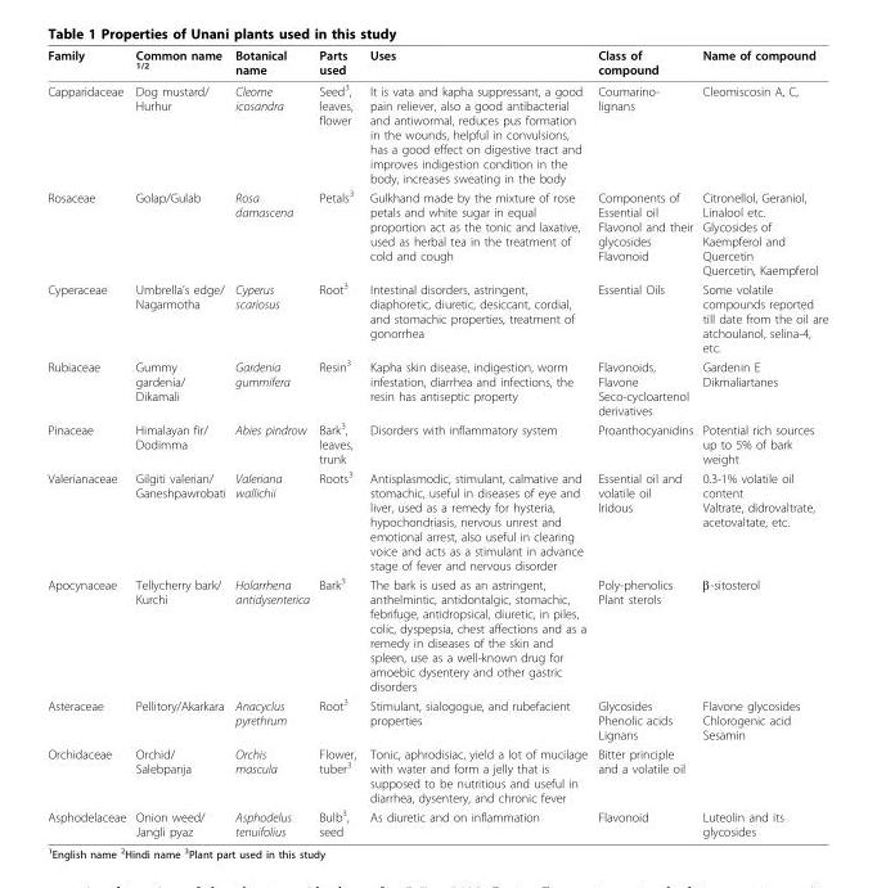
<table><thead><tr><td>Family</td><td>Common name <sup>1/2</sup></td><td>Botanical name</td><td>Parts used</td><td>Uses</td><td>Class of compound</td><td>Name of compound</td></tr></thead><tbody><tr><td>Capparidaceae</td><td>Dog mustard/ Hurhur</td><td>Cleome icosandra</td><td>Seed<sup>3</sup>, leaves, flower</td><td>It is vata and kapha suppressant, a good pain reliever, also a good antibacterial and antiwormal, reduces pus formation in the wounds, helpful in convulsions, has a good effect on digestive tract and improves indigestion condition in the body, increases sweating in the body</td><td>Coumarino- lignans</td><td>Cleomiscosin A, C,</td></tr><tr><td>Rosaceae</td><td>Golap/Gulab</td><td>Rosa damascena</td><td>Petals<sup>3</sup></td><td>Gulkhand made by the mixture of rose petals and white sugar in equal proportion act as the tonic and laxative, used as herbal tea in the treatment of cold and cough</td><td>Components of Essential oil Flavonol and their glycosides Flavonoid</td><td>Citronellol, Geraniol, Linalool etc. Glycosides of Kaempferol and Quercetin Quercetin, Kaempferol</td></tr><tr><td>Cyperaceae</td><td>Umbrella’s edge/ Nagarmotha</td><td>Cyperus scariosus</td><td>Root<sup>3</sup></td><td>Intestinal disorders, astringent, diaphoretic, diuretic, desiccant, cordial, and stomachic properties, treatment of gonorrhea</td><td>Essential Oils</td><td>Some volatile compounds reported till date from the oil are atchoulanol, selina-4, etc.</td></tr><tr><td>Rubiaceae</td><td>Gummy gardenia/ Dikamali</td><td>Gardenia gummifera</td><td>Resin<sup>3</sup></td><td>Kapha skin disease, indigestion, worm infestation, diarrhea and infections, the resin has antiseptic property</td><td>Flavonoids, Flavone Seco-cycloartenol derivatives</td><td>Gardenin E Dikmaliartanes</td></tr><tr><td>Pinaceae</td><td>Himalayan fir/ Dodimma</td><td>Abies pindrow</td><td>Bark<sup>3</sup>, leaves, trunk</td><td>Disorders with inflammatory system</td><td>Proanthocyanidins</td><td>Potential rich sources up to 5% of bark weight</td></tr><tr><td>Valerianaceae</td><td>Gilgiti valerian/ Ganeshpawrobati</td><td>Valeriana wallichii</td><td>Roots<sup>3</sup></td><td>Antisplasmodic, stimulant, calmative and stomachic, useful in diseases of eye and liver, used as a remedy for hysteria, hypochondriasis, nervous unrest and emotional arrest, also useful in clearing voice and acts as a stimulant in advance stage of fever and nervous disorder</td><td>Essential oil and volatile oil Iridous</td><td>0.3-1% volatile oil content Valtrate, didrovaltrate, acetovaltate, etc.</td></tr><tr><td>Apocynaceae</td><td>Tellycherry bark/ Kurchi</td><td>Holarrhena antidysenterica</td><td>Bark<sup>3</sup></td><td>The bark is used as an astringent, anthelmintic, antidontalgic, stomachic, febrifuge, antidropsical, diuretic, in piles, colic, dyspepsia, chest affections and as a remedy in diseases of the skin and spleen, use as a well-known drug for amoebic dysentery and other gastric disorders</td><td>Poly-phenolics Plant sterols</td><td>β-sitosterol</td></tr><tr><td>Asteraceae</td><td>Pellitory/Akarkara</td><td>Anacyclus pyrethrum</td><td>Root<sup>3</sup></td><td>Stimulant, sialogogue, and rubefacient properties</td><td>Glycosides Phenolic acids Lignans</td><td>Flavone glycosides Chlorogenic acid Sesamin</td></tr><tr><td>Orchidaceae</td><td>Orchid/ Salebpanja</td><td>Orchis mascula</td><td>Flower, tuber<sup>3</sup></td><td>Tonic, aphrodisiac, yield a lot of mucilage with water and form a jelly that is supposed to be nutritious and useful in diarrhea, dysentery, and chronic fever</td><td>Bitter principle and a volatile oil</td><td></td></tr><tr><td>Asphodelaceae</td><td>Onion weed/ Jangli pyaz</td><td>Asphodelus tenuifolius</td><td>Bulb<sup>3</sup>, seed</td><td>As diuretic and on inflammation</td><td>Flavonoid</td><td>Luteolin and its glycosides</td></tr></tbody></table>